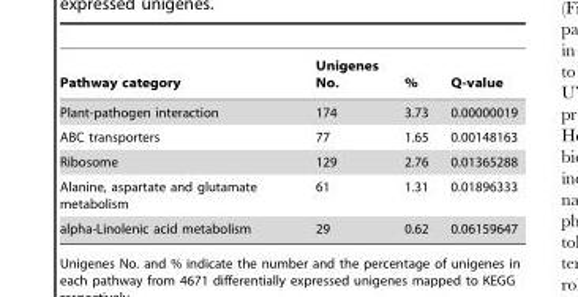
<table><thead><tr><td>Pathway category</td><td>Unigenes No.</td><td>%</td><td>Q-value</td></tr></thead><tbody><tr><td>Plant-pathogen interaction</td><td>174</td><td>3.73</td><td>0.00000019</td></tr><tr><td>ABC transporters</td><td>77</td><td>1.65</td><td>0.00148163</td></tr><tr><td>Ribosome</td><td>129</td><td>2.76</td><td>0.01365288</td></tr><tr><td>Alanine, aspartate and glutamate metabolism</td><td>61</td><td>1.31</td><td>0.01896333</td></tr><tr><td>alpha-Linolenic acid metabolism</td><td>29</td><td>0.62</td><td>0.06159647</td></tr></tbody></table>